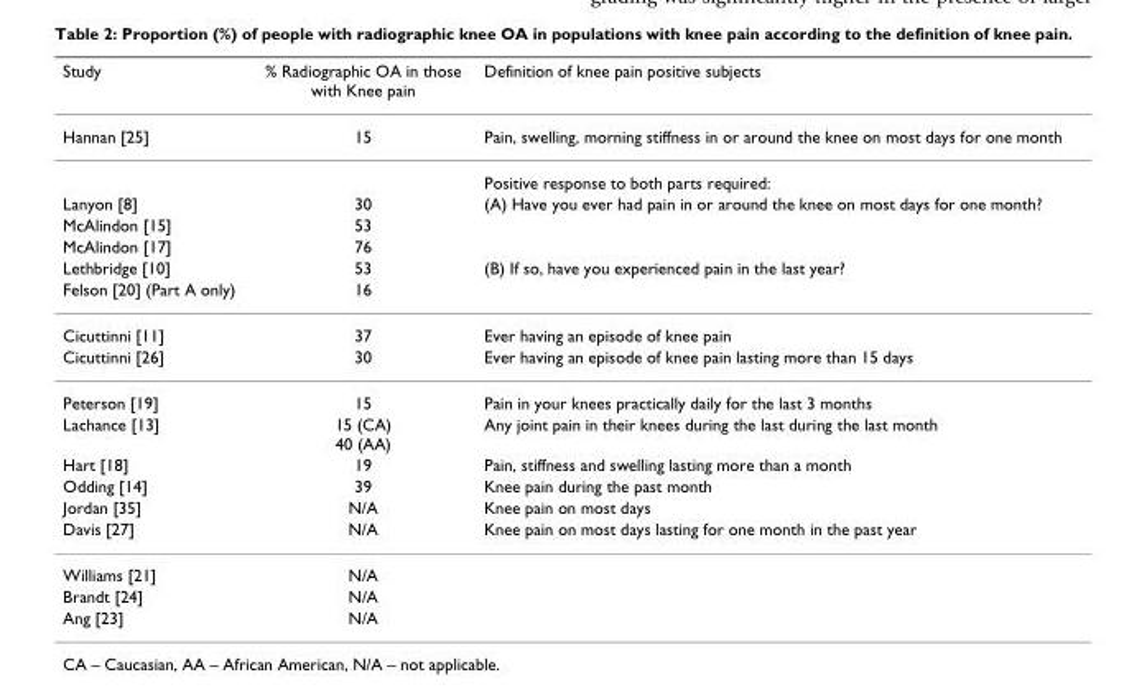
<table><thead><tr><td>Study</td><td>% Radiographic OA in those with Knee pain</td><td>Definition of knee pain positive subjects</td></tr></thead><tbody><tr><td rowspan="2">Hannan [25]</td><td>15</td><td>Pain, swelling, morning stiffness in or around the knee on most days for one month</td></tr><tr><td></td><td>Positive response to both parts required:</td></tr><tr><td>Lanyon [8]</td><td>30</td><td>(A) Have you ever had pain in or around the knee on most days for one month?</td></tr><tr><td>McAlindon [15]</td><td>53</td><td></td></tr><tr><td>McAlindon [17]</td><td>76</td><td></td></tr><tr><td>Lethbridge [10]</td><td>53</td><td>(B) If so, have you experienced pain in the last year?</td></tr><tr><td>Felson [20] (Part A only)</td><td>16</td><td></td></tr><tr><td>Cicuttinni [11]</td><td>37</td><td>Ever having an episode of knee pain</td></tr><tr><td>Cicuttinni [26]</td><td>30</td><td>Ever having an episode of knee pain lasting more than 15 days</td></tr><tr><td>Peterson [19]</td><td>15</td><td>Pain in your knees practically daily for the last 3 months</td></tr><tr><td>Lachance [13]</td><td>15 (CA) 40 (AA)</td><td>Any joint pain in their knees during the last during the last month</td></tr><tr><td>Hart [18]</td><td>19</td><td>Pain, stiffness and swelling lasting more than a month</td></tr><tr><td>Odding [14]</td><td>39</td><td>Knee pain during the past month</td></tr><tr><td>Jordan [35]</td><td>N/A</td><td>Knee pain on most days</td></tr><tr><td>Davis [27]</td><td>N/A</td><td>Knee pain on most days lasting for one month in the past year</td></tr><tr><td>Williams [21]</td><td>N/A</td><td></td></tr><tr><td>Brandt [24]</td><td>N/A</td><td></td></tr><tr><td>Ang [23]</td><td>N/A</td><td></td></tr></tbody></table>